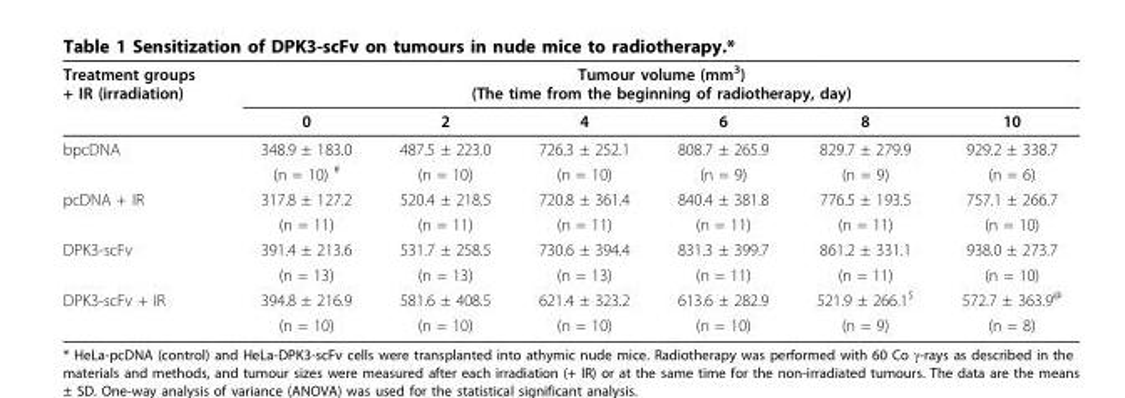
<table><thead><tr><td rowspan="2">Treatment groups + IR (irradiation)</td><td colspan="6">Tumour volume (mm<sup>3</sup>) (The time from the beginning of radiotherapy, day)</td></tr><tr><td>0</td><td>2</td><td>4</td><td>6</td><td>8</td><td>10</td></tr></thead><tbody><tr><td rowspan="2">bpcDNA</td><td>348.9 ± 183.0</td><td>487.5 ± 223.0</td><td>726.3 ± 252.1</td><td>808.7 ± 265.9</td><td>829.7 ± 279.9</td><td>929.2 ± 338.7</td></tr><tr><td>(n = 10) <sup>#</sup></td><td>(n = 10)</td><td>(n = 10)</td><td>(n = 9)</td><td>(n = 9)</td><td>(n = 6)</td></tr><tr><td rowspan="2">pcDNA + IR</td><td>317.8 ± 127.2</td><td>520.4 ± 218.5</td><td>720.8 ± 361.4</td><td>840.4 ± 381.8</td><td>776.5 ± 193.5</td><td>757.1 ± 266.7</td></tr><tr><td>(n = 11)</td><td>(n = 11)</td><td>(n = 11)</td><td>(n = 11)</td><td>(n = 11)</td><td>(n = 10)</td></tr><tr><td rowspan="2">DPK3-scFv</td><td>391.4 ± 213.6</td><td>531.7 ± 258.5</td><td>730.6 ± 394.4</td><td>831.3 ± 399.7</td><td>861.2 ± 331.1</td><td>938.0 ± 273.7</td></tr><tr><td>(n = 13)</td><td>(n = 13)</td><td>(n = 13)</td><td>(n = 11)</td><td>(n = 11)</td><td>(n = 10)</td></tr><tr><td rowspan="2">DPK3-scFv + IR</td><td>394.8 ± 216.9</td><td>581.6 ± 408.5</td><td>621.4 ± 323.2</td><td>613.6 ± 282.9</td><td>521.9 ± 266.1<sup>$</sup></td><td>572.7 ± 363.9<sup>@</sup></td></tr><tr><td>(n = 10)</td><td>(n = 10)</td><td>(n = 10)</td><td>(n = 10)</td><td>(n = 9)</td><td>(n = 8)</td></tr></tbody></table>